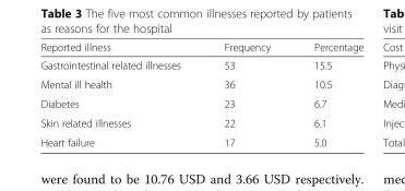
<table><thead><tr><td>Reported illness</td><td>Frequency</td><td>Percentage</td></tr></thead><tbody><tr><td>Gastrointestinal related illnesses</td><td>53</td><td>15.5</td></tr><tr><td>Mental ill health</td><td>36</td><td>10.5</td></tr><tr><td>Diabetes</td><td>23</td><td>6.7</td></tr><tr><td>Skin related illnesses</td><td>22</td><td>6.1</td></tr><tr><td>Heart failure</td><td>17</td><td>5.0</td></tr></tbody></table>